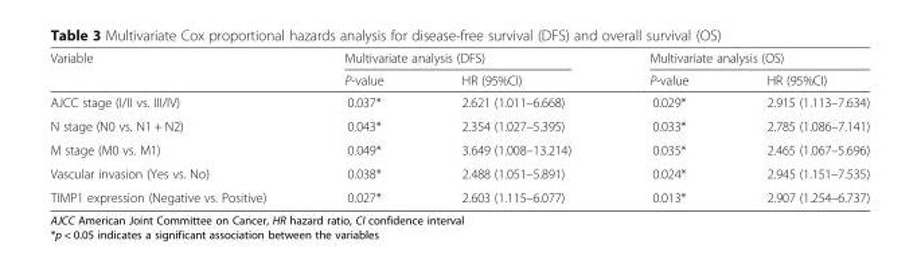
<table><thead><tr><td rowspan="2">Variable</td><td colspan="2">Multivariate analysis (DFS)</td><td colspan="2">Multivariate analysis (OS)</td></tr><tr><td>P-value</td><td>HR (95%CI)</td><td>P-value</td><td>HR (95%CI)</td></tr></thead><tbody><tr><td>AJCC stage (I/II vs. III/IV)</td><td>0.037*</td><td>2.621 (1.011–6.668)</td><td>0.029*</td><td>2.915 (1.113–7.634)</td></tr><tr><td>N stage (N0 vs. N1 + N2)</td><td>0.043*</td><td>2.354 (1.027–5.395)</td><td>0.033*</td><td>2.785 (1.086–7.141)</td></tr><tr><td>M stage (M0 vs. M1)</td><td>0.049*</td><td>3.649 (1.008–13.214)</td><td>0.035*</td><td>2.465 (1.067–5.696)</td></tr><tr><td>Vascular invasion (Yes vs. No)</td><td>0.038*</td><td>2.488 (1.051–5.891)</td><td>0.024*</td><td>2.945 (1.151–7.535)</td></tr><tr><td>TIMP1 expression (Negative vs. Positive)</td><td>0.027*</td><td>2.603 (1.115–6.077)</td><td>0.013*</td><td>2.907 (1.254–6.737)</td></tr></tbody></table>